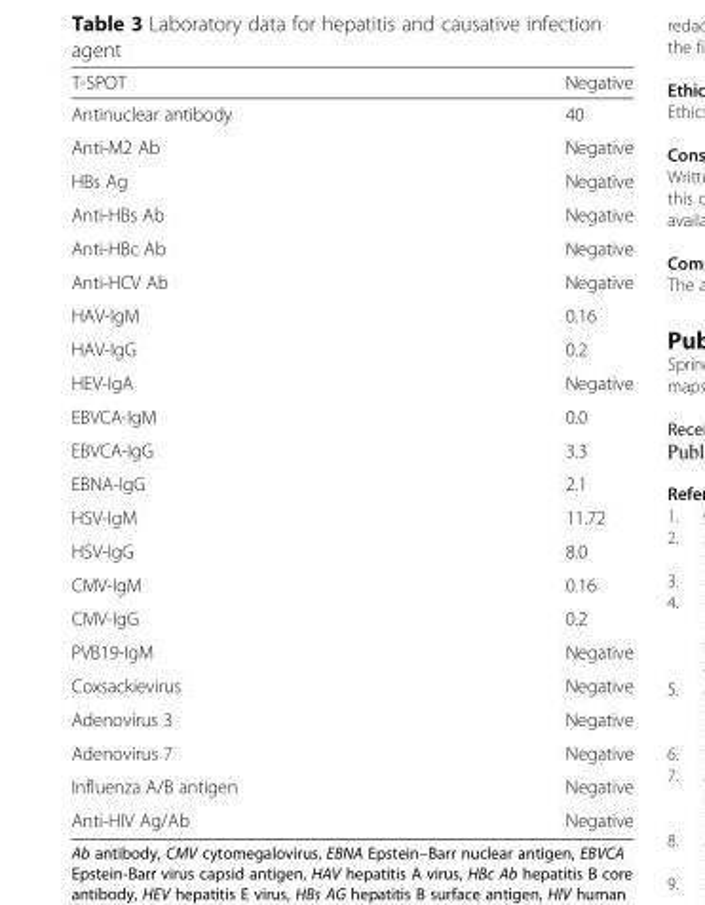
<table><thead><tr><td>T-SPOT</td><td>Negative</td></tr></thead><tbody><tr><td>Antinuclear antibody</td><td>40</td></tr><tr><td>Anti-M2 Ab</td><td>Negative</td></tr><tr><td>HBs Ag</td><td>Negative</td></tr><tr><td>Anti-HBs Ab</td><td>Negative</td></tr><tr><td>Anti-HBc Ab</td><td>Negative</td></tr><tr><td>Anti-HCV Ab</td><td>Negative</td></tr><tr><td>HAV-IgM</td><td>0.16</td></tr><tr><td>HAV-IgG</td><td>0.2</td></tr><tr><td>HEV-IgA</td><td>Negative</td></tr><tr><td>EBVCA-IgM</td><td>0.0</td></tr><tr><td>EBVCA-IgG</td><td>3.3</td></tr><tr><td>EBNA-IgG</td><td>2.1</td></tr><tr><td>HSV-IgM</td><td>11.72</td></tr><tr><td>HSV-IgG</td><td>8.0</td></tr><tr><td>CMV-IgM</td><td>0.16</td></tr><tr><td>CMV-IgG</td><td>0.2</td></tr><tr><td>PVB19-IgM</td><td>Negative</td></tr><tr><td>Coxsackievirus</td><td>Negative</td></tr><tr><td>Adenovirus 3</td><td>Negative</td></tr><tr><td>Adenovirus 7</td><td>Negative</td></tr><tr><td>Influenza A/B antigen</td><td>Negative</td></tr><tr><td>Anti-HIV Ag/Ab</td><td>Negative</td></tr></tbody></table>